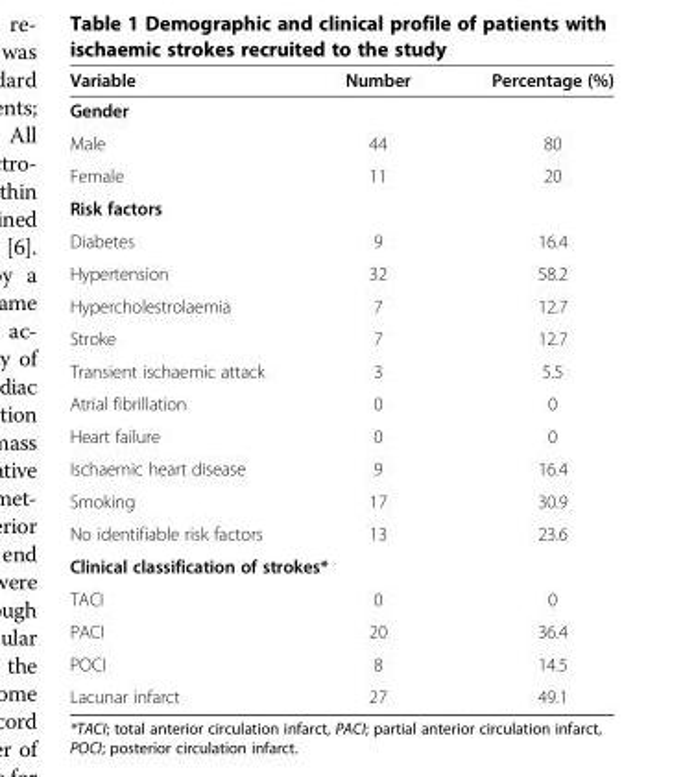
<table><thead><tr><td>Variable</td><td>Number</td><td>Percentage (%)</td></tr></thead><tbody><tr><td colspan="3">Gender</td></tr><tr><td>Male</td><td>44</td><td>80</td></tr><tr><td>Female</td><td>11</td><td>20</td></tr><tr><td colspan="3">Risk factors</td></tr><tr><td>Diabetes</td><td>9</td><td>16.4</td></tr><tr><td>Hypertension</td><td>32</td><td>58.2</td></tr><tr><td>Hypercholestrolaemia</td><td>7</td><td>12.7</td></tr><tr><td>Stroke</td><td>7</td><td>12.7</td></tr><tr><td>Transient ischaemic attack</td><td>3</td><td>5.5</td></tr><tr><td>Atrial fibrillation</td><td>0</td><td>0</td></tr><tr><td>Heart failure</td><td>0</td><td>0</td></tr><tr><td>Ischaemic heart disease</td><td>9</td><td>16.4</td></tr><tr><td>Smoking</td><td>17</td><td>30.9</td></tr><tr><td>No identifiable risk factors</td><td>13</td><td>23.6</td></tr><tr><td colspan="3">Clinical classification of strokes*</td></tr><tr><td>TACI</td><td>0</td><td>0</td></tr><tr><td>PACI</td><td>20</td><td>36.4</td></tr><tr><td>POCI</td><td>8</td><td>14.5</td></tr><tr><td>Lacunar infarct</td><td>27</td><td>49.1</td></tr></tbody></table>